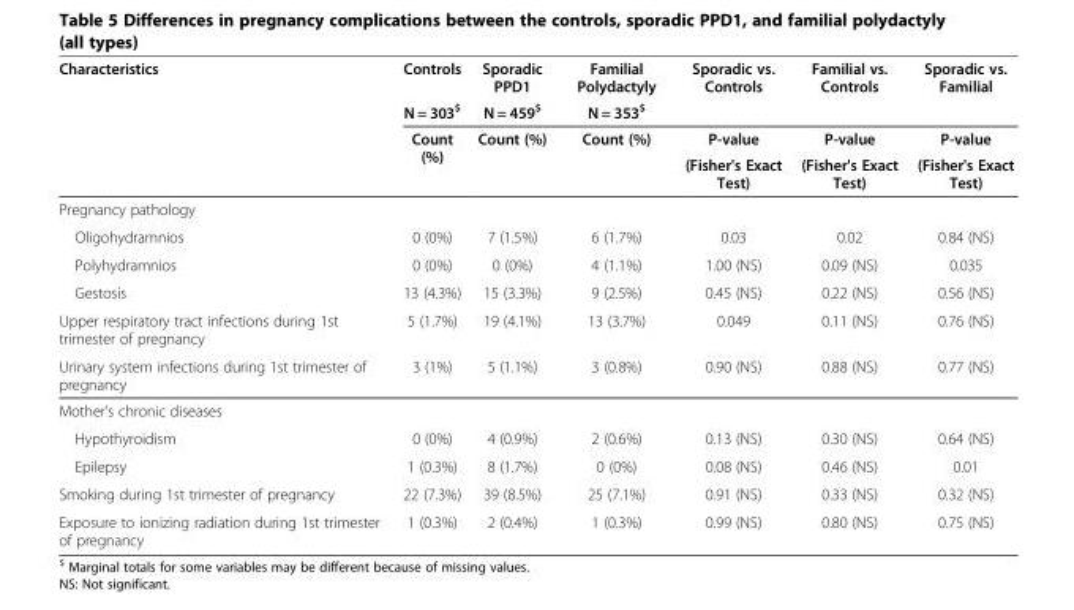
<table><thead><tr><td rowspan="4">Characteristics</td><td rowspan="4">Controls N = 303<sup>$</sup> Count (%)</td><td rowspan="4">Sporadic PPD1 N = 459<sup>$</sup> Count (%)</td><td rowspan="4">Familial Polydactyly N = 353<sup>$</sup> Count (%)</td><td rowspan="4">Sporadic vs. Controls P-value (Fisher&#x27;s Exact Test)</td><td rowspan="4">Familial vs. Controls P-value (Fisher&#x27;s Exact Test)</td><td rowspan="4">Sporadic vs. Familial P-value (Fisher&#x27;s Exact Test)</td></tr><tr></tr><tr></tr><tr></tr></thead><tbody><tr><td colspan="7">Pregnancy pathology</td></tr><tr><td>Oligohydramnios</td><td>0 (0%)</td><td>7 (1.5%)</td><td>6 (1.7%)</td><td>0.03</td><td>0.02</td><td>0.84 (NS)</td></tr><tr><td>Polyhydramnios</td><td>0 (0%)</td><td>0 (0%)</td><td>4 (1.1%)</td><td>1.00 (NS)</td><td>0.09 (NS)</td><td>0.035</td></tr><tr><td>Gestosis</td><td>13 (4.3%)</td><td>15 (3.3%)</td><td>9 (2.5%)</td><td>0.45 (NS)</td><td>0.22 (NS)</td><td>0.56 (NS)</td></tr><tr><td>Upper respiratory tract infections during 1st trimester of pregnancy</td><td>5 (1.7%)</td><td>19 (4.1%)</td><td>13 (3.7%)</td><td>0.049</td><td>0.11 (NS)</td><td>0.76 (NS)</td></tr><tr><td>Urinary system infections during 1st trimester of pregnancy</td><td>3 (1%)</td><td>5 (1.1%)</td><td>3 (0.8%)</td><td>0.90 (NS)</td><td>0.88 (NS)</td><td>0.77 (NS)</td></tr><tr><td colspan="7">Mother’s chronic diseases</td></tr><tr><td>Hypothyroidism</td><td>0 (0%)</td><td>4 (0.9%)</td><td>2 (0.6%)</td><td>0.13 (NS)</td><td>0.30 (NS)</td><td>0.64 (NS)</td></tr><tr><td>Epilepsy</td><td>1 (0.3%)</td><td>8 (1.7%)</td><td>0 (0%)</td><td>0.08 (NS)</td><td>0.46 (NS)</td><td>0.01</td></tr><tr><td>Smoking during 1st trimester of pregnancy</td><td>22 (7.3%)</td><td>39 (8.5%)</td><td>25 (7.1%)</td><td>0.91 (NS)</td><td>0.33 (NS)</td><td>0.32 (NS)</td></tr><tr><td>Exposure to ionizing radiation during 1st trimester of pregnancy</td><td>1 (0.3%)</td><td>2 (0.4%)</td><td>1 (0.3%)</td><td>0.99 (NS)</td><td>0.80 (NS)</td><td>0.75 (NS)</td></tr></tbody></table>